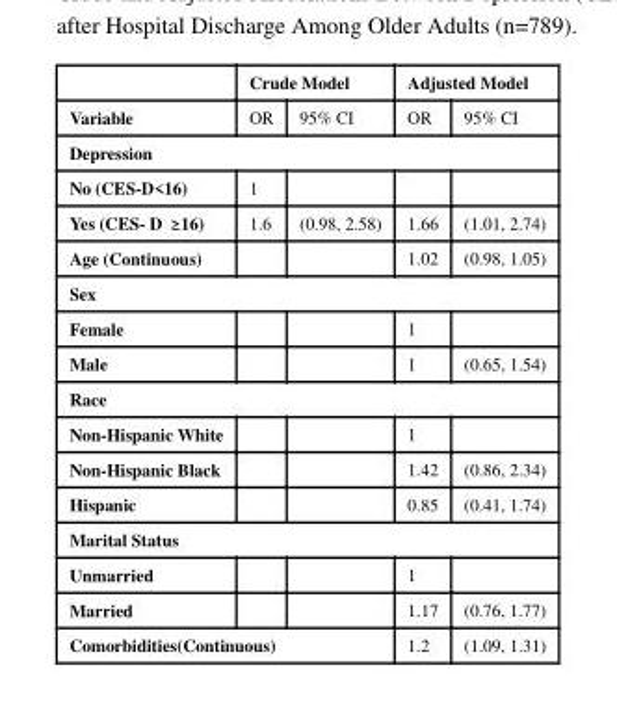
<table><thead><tr><td rowspan="2">Variable</td><td colspan="2">Crude Model</td><td colspan="2">Adjusted Model</td></tr><tr><td>OR</td><td>95% CI</td><td>OR</td><td>95% CI</td></tr></thead><tbody><tr><td colspan="5">Depression</td></tr><tr><td>No (CES-D&lt;16)</td><td>1</td><td></td><td></td><td></td></tr><tr><td>Yes (CES- D ≥ 16)</td><td>1.6</td><td>(0.98, 2.58)</td><td>1.66</td><td>(1.01, 2.74)</td></tr><tr><td>Age (Continuous)</td><td></td><td></td><td>1.02</td><td>(0.98, 1.05)</td></tr><tr><td colspan="5">Sex</td></tr><tr><td>Female</td><td></td><td></td><td>1</td><td></td></tr><tr><td>Male</td><td></td><td></td><td>1</td><td>(0.65, 1.54)</td></tr><tr><td colspan="5">Race</td></tr><tr><td>Non-Hispanic White</td><td></td><td></td><td>1</td><td></td></tr><tr><td>Non-Hispanic Black</td><td></td><td></td><td>1.42</td><td>(0.86, 2.34)</td></tr><tr><td>Hispanic</td><td></td><td></td><td>0.85</td><td>(0.41, 1.74)</td></tr><tr><td colspan="5">Marital Status</td></tr><tr><td>Unmarried</td><td></td><td></td><td>1</td><td></td></tr><tr><td>Married</td><td></td><td></td><td>1.17</td><td>(0.76, 1.77)</td></tr><tr><td colspan="3">Comorbidities(Continuous)</td><td>1.2</td><td>(1.09, 1.31)</td></tr></tbody></table>